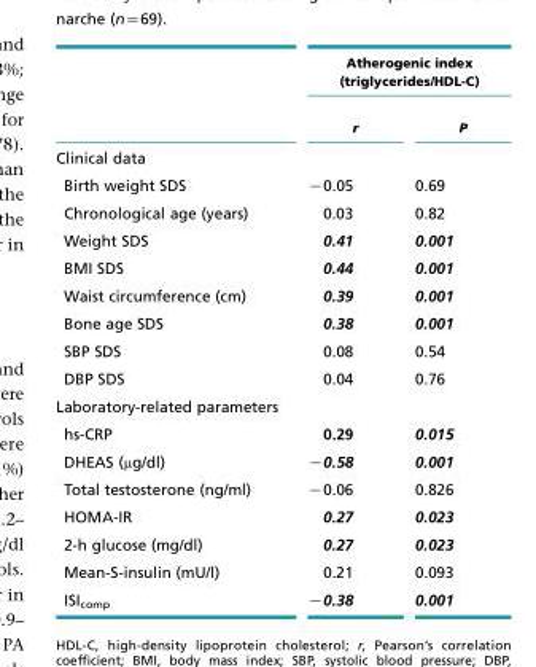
<table><thead><tr><td rowspan="2"></td><td colspan="2">Atherogenic index (triglycerides/HDL-C)</td></tr><tr><td>r</td><td>P</td></tr></thead><tbody><tr><td colspan="3">Clinical data</td></tr><tr><td>Birth weight SDS</td><td>−0.05</td><td>0.69</td></tr><tr><td>Chronological age (years)</td><td>0.03</td><td>0.82</td></tr><tr><td>Weight SDS</td><td>0.41</td><td>0.001</td></tr><tr><td>BMI SDS</td><td>0.44</td><td>0.001</td></tr><tr><td>Waist circumference (cm)</td><td>0.39</td><td>0.001</td></tr><tr><td>Bone age SDS</td><td>0.38</td><td>0.001</td></tr><tr><td>SBP SDS</td><td>0.08</td><td>0.54</td></tr><tr><td>DBP SDS</td><td>0.04</td><td>0.76</td></tr><tr><td colspan="3">Laboratory-related parameters</td></tr><tr><td>hs-CRP</td><td>0.29</td><td>0.015</td></tr><tr><td>DHEAS (μg/dl)</td><td>−0.58</td><td>0.001</td></tr><tr><td>Total testosterone (ng/ml)</td><td>−0.06</td><td>0.826</td></tr><tr><td>HOMA-IR</td><td>0.27</td><td>0.023</td></tr><tr><td>2-h glucose (mg/dl)</td><td>0.27</td><td>0.023</td></tr><tr><td>Mean-S-insulin (mU/l)</td><td>0.21</td><td>0.093</td></tr><tr><td>ISI<sub>comp</sub></td><td>−0.38</td><td>0.001</td></tr></tbody></table>